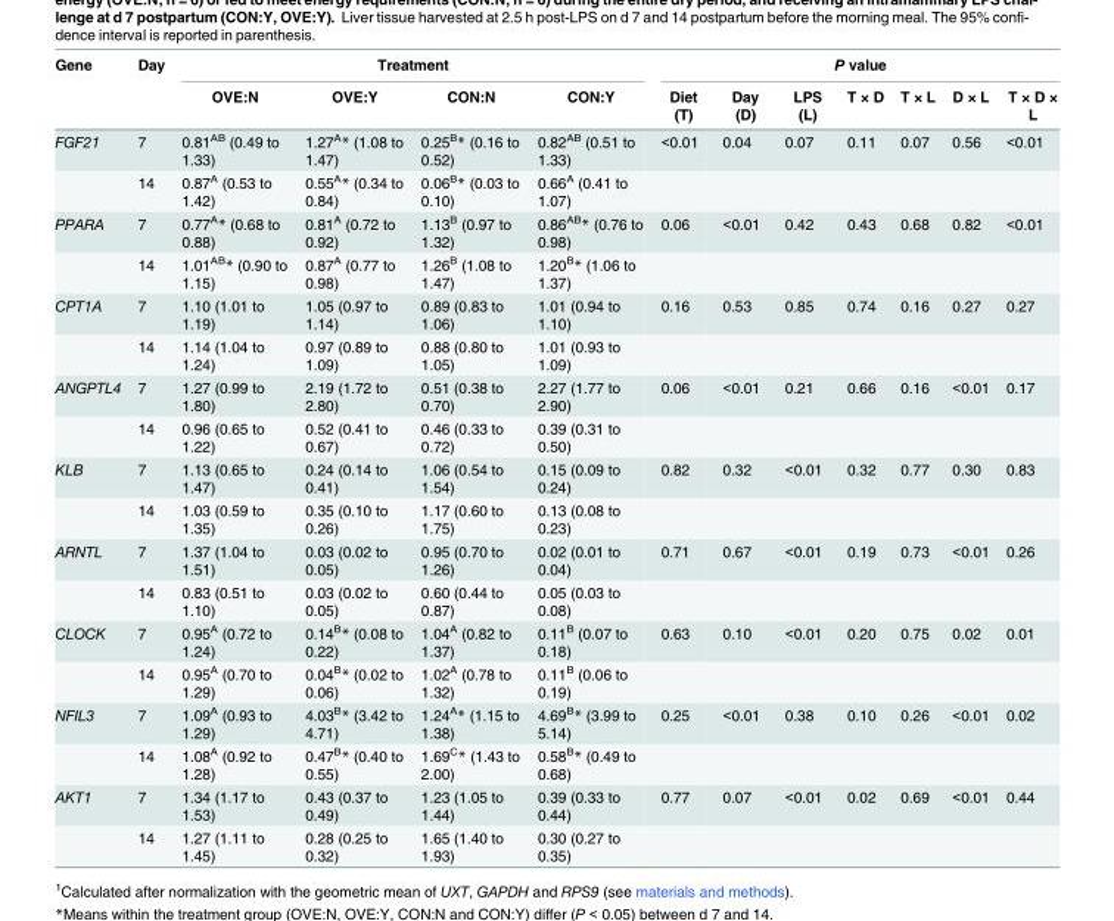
<table><thead><tr><td rowspan="2">Gene</td><td rowspan="2">Day</td><td colspan="4">Treatment</td><td colspan="7">P value</td></tr><tr><td>OVE:N</td><td>OVE:Y</td><td>CON:N</td><td>CON:Y</td><td>Diet (T)</td><td>Day (D)</td><td>LPS (L)</td><td>T × D</td><td>T × L</td><td>D × L</td><td>T × D × L</td></tr></thead><tbody><tr><td rowspan="2">FGF21</td><td>7</td><td>0.81<sup>AB</sup> (0.49 to 1.33)</td><td>1.27<sup>A</sup>* (1.08 to 1.47)</td><td>0.25<sup>B</sup>* (0.16 to 0.52)</td><td>0.82<sup>AB</sup> (0.51 to 1.33)</td><td>&lt;0.01</td><td>0.04</td><td>0.07</td><td>0.11</td><td>0.07</td><td>0.56</td><td>&lt;0.01</td></tr><tr><td>14</td><td>0.87<sup>A</sup> (0.53 to 1.42)</td><td>0.55<sup>A</sup>* (0.34 to 0.84)</td><td>0.06<sup>B</sup>* (0.03 to 0.10)</td><td>0.66<sup>A</sup> (0.41 to 1.07)</td><td></td><td></td><td></td><td></td><td></td><td></td><td></td></tr><tr><td rowspan="2">PPARA</td><td>7</td><td>0.77<sup>A</sup>* (0.68 to 0.88)</td><td>0.81<sup>A</sup> (0.72 to 0.92)</td><td>1.13<sup>B</sup> (0.97 to 1.32)</td><td>0.86<sup>AB</sup>* (0.76 to 0.98)</td><td>0.06</td><td>&lt;0.01</td><td>0.42</td><td>0.43</td><td>0.68</td><td>0.82</td><td>&lt;0.01</td></tr><tr><td>14</td><td>1.01<sup>AB</sup>* (0.90 to 1.15)</td><td>0.87<sup>A</sup> (0.77 to 0.98)</td><td>1.26<sup>B</sup> (1.08 to 1.47)</td><td>1.20<sup>B</sup>* (1.06 to 1.37)</td><td></td><td></td><td></td><td></td><td></td><td></td><td></td></tr><tr><td rowspan="2">CPT1A</td><td>7</td><td>1.10 (1.01 to 1.19)</td><td>1.05 (0.97 to 1.14)</td><td>0.89 (0.83 to 1.06)</td><td>1.01 (0.94 to 1.10)</td><td>0.16</td><td>0.53</td><td>0.85</td><td>0.74</td><td>0.16</td><td>0.27</td><td>0.27</td></tr><tr><td>14</td><td>1.14 (1.04 to 1.24)</td><td>0.97 (0.89 to 1.09)</td><td>0.88 (0.80 to 1.05)</td><td>1.01 (0.93 to 1.09)</td><td></td><td></td><td></td><td></td><td></td><td></td><td></td></tr><tr><td rowspan="2">ANGPTL4</td><td>7</td><td>1.27 (0.99 to 1.80)</td><td>2.19 (1.72 to 2.80)</td><td>0.51 (0.38 to 0.70)</td><td>2.27 (1.77 to 2.90)</td><td>0.06</td><td>&lt;0.01</td><td>0.21</td><td>0.66</td><td>0.16</td><td>&lt;0.01</td><td>0.17</td></tr><tr><td>14</td><td>0.96 (0.65 to 1.22)</td><td>0.52 (0.41 to 0.67)</td><td>0.46 (0.33 to 0.72)</td><td>0.39 (0.31 to 0.50)</td><td></td><td></td><td></td><td></td><td></td><td></td><td></td></tr><tr><td rowspan="2">KLB</td><td>7</td><td>1.13 (0.65 to 1.47)</td><td>0.24 (0.14 to 0.41)</td><td>1.06 (0.54 to 1.54)</td><td>0.15 (0.09 to 0.24)</td><td>0.82</td><td>0.32</td><td>&lt;0.01</td><td>0.32</td><td>0.77</td><td>0.30</td><td>0.83</td></tr><tr><td>14</td><td>1.03 (0.59 to 1.35)</td><td>0.35 (0.10 to 0.26)</td><td>1.17 (0.60 to 1.75)</td><td>0.13 (0.08 to 0.23)</td><td></td><td></td><td></td><td></td><td></td><td></td><td></td></tr><tr><td rowspan="2">ARNTL</td><td>7</td><td>1.37 (1.04 to 1.51)</td><td>0.03 (0.02 to 0.05)</td><td>0.95 (0.70 to 1.26)</td><td>0.02 (0.01 to 0.04)</td><td>0.71</td><td>0.67</td><td>&lt;0.01</td><td>0.19</td><td>0.73</td><td>&lt;0.01</td><td>0.26</td></tr><tr><td>14</td><td>0.83 (0.51 to 1.10)</td><td>0.03 (0.02 to 0.05)</td><td>0.60 (0.44 to 0.87)</td><td>0.05 (0.03 to 0.08)</td><td></td><td></td><td></td><td></td><td></td><td></td><td></td></tr><tr><td rowspan="2">CLOCK</td><td>7</td><td>0.95<sup>A</sup> (0.72 to 1.24)</td><td>0.14<sup>B</sup>* (0.08 to 0.22)</td><td>1.04<sup>A</sup> (0.82 to 1.37)</td><td>0.11<sup>B</sup> (0.07 to 0.18)</td><td>0.63</td><td>0.10</td><td>&lt;0.01</td><td>0.20</td><td>0.75</td><td>0.02</td><td>0.01</td></tr><tr><td>14</td><td>0.95<sup>A</sup> (0.70 to 1.29)</td><td>0.04<sup>B</sup>* (0.02 to 0.06)</td><td>1.02<sup>A</sup> (0.78 to 1.32)</td><td>0.11<sup>B</sup> (0.06 to 0.19)</td><td></td><td></td><td></td><td></td><td></td><td></td><td></td></tr><tr><td rowspan="2">NFIL3</td><td>7</td><td>1.09<sup>A</sup> (0.93 to 1.29)</td><td>4.03<sup>B</sup>* (3.42 to 4.71)</td><td>1.24<sup>A</sup>* (1.15 to 1.38)</td><td>4.69<sup>B</sup>* (3.99 to 5.14)</td><td>0.25</td><td>&lt;0.01</td><td>0.38</td><td>0.10</td><td>0.26</td><td>&lt;0.01</td><td>0.02</td></tr><tr><td>14</td><td>1.08<sup>A</sup> (0.92 to 1.28)</td><td>0.47<sup>B</sup>* (0.40 to 0.55)</td><td>1.69<sup>C</sup>* (1.43 to 2.00)</td><td>0.58<sup>B</sup>* (0.49 to 0.68)</td><td></td><td></td><td></td><td></td><td></td><td></td><td></td></tr><tr><td rowspan="2">AKT1</td><td>7</td><td>1.34 (1.17 to 1.53)</td><td>0.43 (0.37 to 0.49)</td><td>1.23 (1.05 to 1.44)</td><td>0.39 (0.33 to 0.44)</td><td>0.77</td><td>0.07</td><td>&lt;0.01</td><td>0.02</td><td>0.69</td><td>&lt;0.01</td><td>0.44</td></tr><tr><td>14</td><td>1.27 (1.11 to 1.45)</td><td>0.28 (0.25 to 0.32)</td><td>1.65 (1.40 to 1.93)</td><td>0.30 (0.27 to 0.35)</td><td></td><td></td><td></td><td></td><td></td><td></td><td></td></tr></tbody></table>